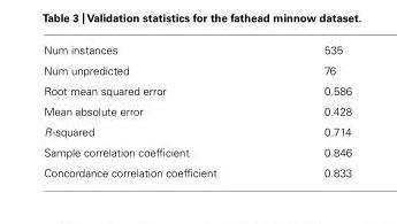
<table><tbody><tr><td>Num instances</td><td>535</td></tr><tr><td>Num unpredicted</td><td>76</td></tr><tr><td>Root mean squared error</td><td>0.586</td></tr><tr><td>Mean absolute error</td><td>0.428</td></tr><tr><td>R-squared</td><td>0.714</td></tr><tr><td>Sample correlation coefficient</td><td>0.846</td></tr><tr><td>Concordance correlation coefficient</td><td>0.833</td></tr></tbody></table>